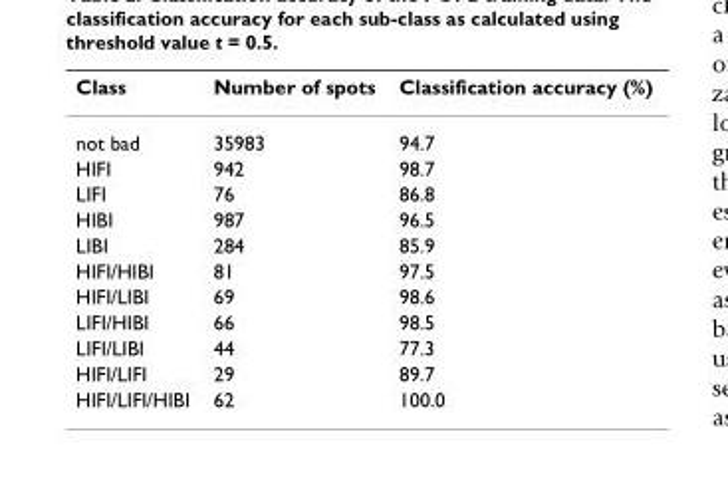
<table><thead><tr><td>Class</td><td>Number of spots</td><td>Classification accuracy (%)</td></tr></thead><tbody><tr><td>not bad</td><td>35983</td><td>94.7</td></tr><tr><td>HIFI</td><td>942</td><td>98.7</td></tr><tr><td>LIFI</td><td>76</td><td>86.8</td></tr><tr><td>HIBI</td><td>987</td><td>96.5</td></tr><tr><td>LIBI</td><td>284</td><td>85.9</td></tr><tr><td>HIFI/HIBI</td><td>81</td><td>97.5</td></tr><tr><td>HIFI/LIBI</td><td>69</td><td>98.6</td></tr><tr><td>LIFI/HIBI</td><td>66</td><td>98.5</td></tr><tr><td>LIFI/LIBI</td><td>44</td><td>77.3</td></tr><tr><td>HIFI/LIFI</td><td>29</td><td>89.7</td></tr><tr><td>HIFI/LIFI/HIBI</td><td>62</td><td>100.0</td></tr></tbody></table>